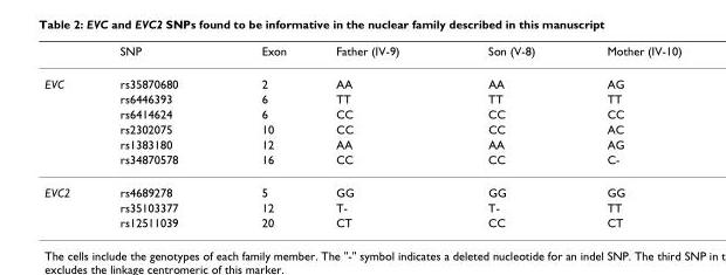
<table><thead><tr><td></td><td>SNP</td><td>Exon</td><td>Father (IV-9)</td><td>Son (V-8)</td><td>Mother (IV-10)</td></tr></thead><tbody><tr><td rowspan="6">EVC</td><td>rs35870680</td><td>2</td><td>AA</td><td>AA</td><td>AG</td></tr><tr><td>rs6446393</td><td>6</td><td>TT</td><td>TT</td><td>TT</td></tr><tr><td>rs6414624</td><td>6</td><td>CC</td><td>CC</td><td>CC</td></tr><tr><td>rs2302075</td><td>10</td><td>CC</td><td>CC</td><td>AC</td></tr><tr><td>rs1383180</td><td>12</td><td>AA</td><td>AA</td><td>AG</td></tr><tr><td>rs34870578</td><td>16</td><td>CC</td><td>CC</td><td>C-</td></tr><tr><td rowspan="3">EVC2</td><td>rs4689278</td><td>5</td><td>GG</td><td>GG</td><td>GG</td></tr><tr><td>rs35103377</td><td>12</td><td>T-</td><td>T-</td><td>TT</td></tr><tr><td>rs12511039</td><td>20</td><td>CT</td><td>CC</td><td>CT</td></tr></tbody></table>